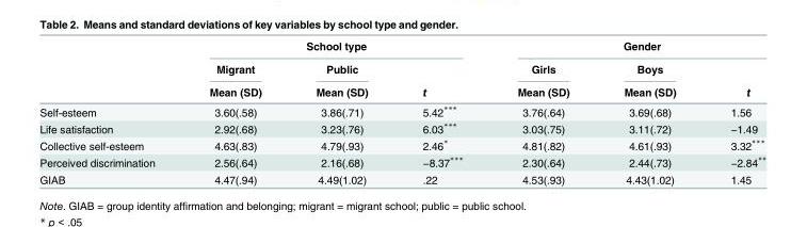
<table><thead><tr><td rowspan="3"></td><td colspan="3">School type</td><td colspan="3">Gender</td></tr><tr><td rowspan="2">Migrant Mean (SD)</td><td rowspan="2">Public Mean (SD)</td><td rowspan="2">t</td><td rowspan="2">Girls Mean (SD)</td><td rowspan="2">Boys Mean (SD)</td><td rowspan="2">t</td></tr><tr></tr></thead><tbody><tr><td>Self-esteem</td><td>3.60(.58)</td><td>3.86(.71)</td><td>5.42***</td><td>3.76(.64)</td><td>3.69(.68)</td><td>1.56</td></tr><tr><td>Life satisfaction</td><td>2.92(.68)</td><td>3.23(.76)</td><td>6.03***</td><td>3.03(.75)</td><td>3.11(.72)</td><td>−1.49</td></tr><tr><td>Collective self-esteem</td><td>4.63(.83)</td><td>4.79(.93)</td><td>2.46*</td><td>4.81(.82)</td><td>4.61(.93)</td><td>3.32***</td></tr><tr><td>Perceived discrimination</td><td>2.56(.64)</td><td>2.16(.68)</td><td>−8.37***</td><td>2.30(.64)</td><td>2.44(.73)</td><td>−2.84**</td></tr><tr><td>GIAB</td><td>4.47(.94)</td><td>4.49(1.02)</td><td>.22</td><td>4.53(.93)</td><td>4.43(1.02)</td><td>1.45</td></tr></tbody></table>